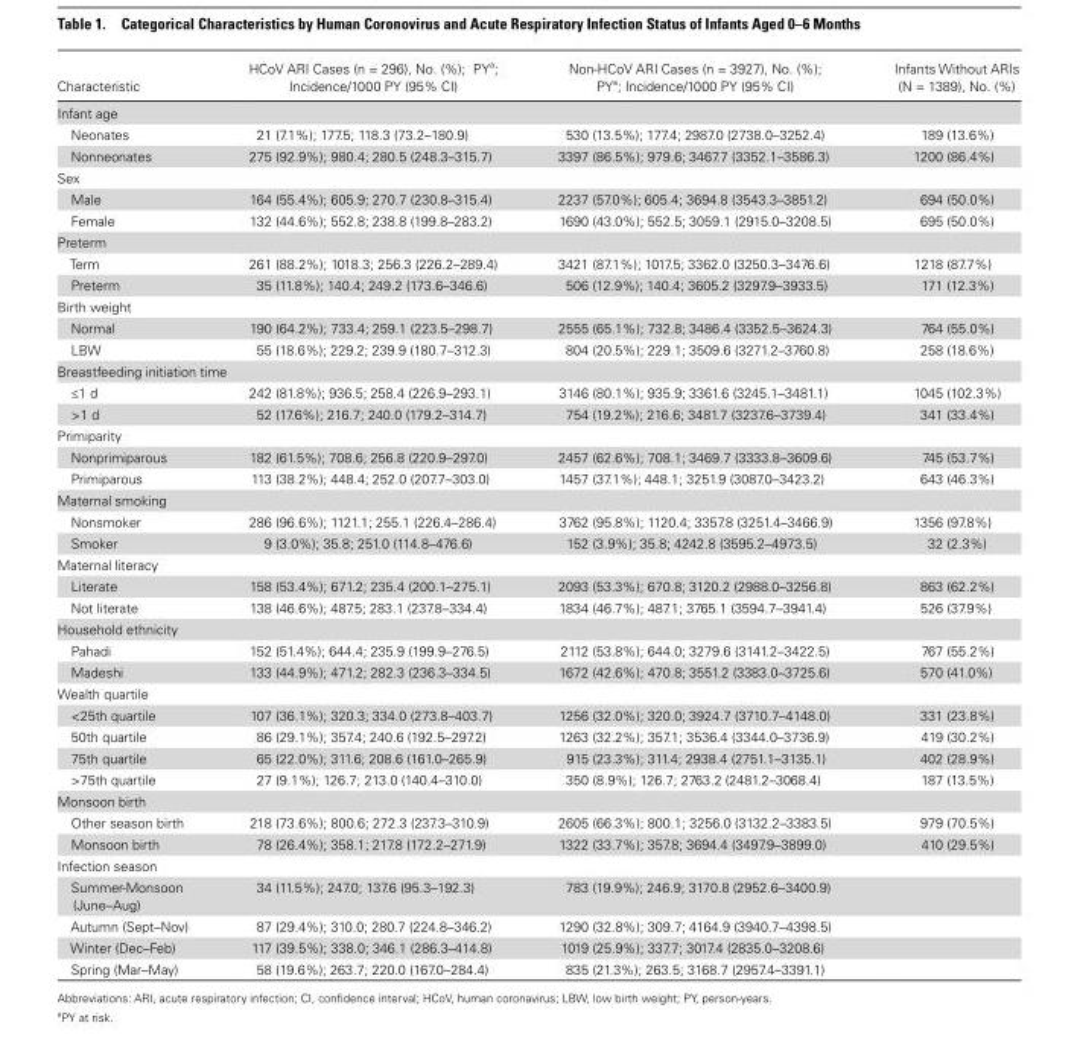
<table><thead><tr><td>Characteristic</td><td>HCoV ARI Cases (n = 296), No. (%); PY<sup>a</sup>; Incidence/1000 PY (95% CI)</td><td>Non-HCoV ARI Cases (n = 3927), No. (%); PY<sup>a</sup>; Incidence/1000 PY (95% CI)</td><td>Infants Without ARIs (N = 1389), No. (%)</td></tr></thead><tbody><tr><td colspan="4">Infant age</td></tr><tr><td>Neonates</td><td>21 (7.1%); 177.5; 118.3 (73.2–180.9)</td><td>530 (13.5%); 177.4; 2987.0 (2738.0–3252.4)</td><td>189 (13.6%)</td></tr><tr><td>Nonneonates</td><td>275 (92.9%); 980.4; 280.5 (248.3–315.7)</td><td>3397 (86.5%); 979.6; 3467.7 (3352.1–3586.3)</td><td>1200 (86.4%)</td></tr><tr><td colspan="4">Sex</td></tr><tr><td>Male</td><td>164 (55.4%); 605.9; 270.7 (230.8–315.4)</td><td>2237 (57.0%); 605.4; 3694.8 (3543.3–3851.2)</td><td>694 (50.0%)</td></tr><tr><td>Female</td><td>132 (44.6%); 552.8; 238.8 (199.8–283.2)</td><td>1690 (43.0%); 552.5; 3059.1 (2915.0–3208.5)</td><td>695 (50.0%)</td></tr><tr><td colspan="4">Preterm</td></tr><tr><td>Term</td><td>261 (88.2%); 1018.3; 256.3 (226.2–289.4)</td><td>3421 (87.1%); 1017.5; 3362.0 (3250.3–3476.6)</td><td>1218 (87.7%)</td></tr><tr><td>Preterm</td><td>35 (11.8%); 140.4; 249.2 (173.6–346.6)</td><td>506 (12.9%); 140.4; 3605.2 (3297.9–3933.5)</td><td>171 (12.3%)</td></tr><tr><td colspan="4">Birth weight</td></tr><tr><td>Normal</td><td>190 (64.2%); 733.4; 259.1 (223.5–298.7)</td><td>2555 (65.1%); 732.8; 3486.4 (3352.5–3624.3)</td><td>764 (55.0%)</td></tr><tr><td>LBW</td><td>55 (18.6%); 229.2; 239.9 (180.7–312.3)</td><td>804 (20.5%); 229.1; 3509.6 (3271.2–3760.8)</td><td>258 (18.6%)</td></tr><tr><td colspan="4">Breastfeeding initiation time</td></tr><tr><td>≤1 d</td><td>242 (81.8%); 936.5; 258.4 (226.9–293.1)</td><td>3146 (80.1%); 935.9; 3361.6 (3245.1–3481.1)</td><td>1045 (102.3%)</td></tr><tr><td>&gt;1 d</td><td>52 (17.6%); 216.7; 240.0 (179.2–314.7)</td><td>754 (19.2%); 216.6; 3481.7 (3237.6–3739.4)</td><td>341 (33.4%)</td></tr><tr><td colspan="4">Primiparity</td></tr><tr><td>Nonprimiparous</td><td>182 (61.5%); 708.6; 256.8 (220.9–297.0)</td><td>2457 (62.6%); 708.1; 3469.7 (3333.8–3609.6)</td><td>745 (53.7%)</td></tr><tr><td>Primiparous</td><td>113 (38.2%); 448.4; 252.0 (207.7–303.0)</td><td>1457 (37.1%); 448.1; 3251.9 (3087.0–3423.2)</td><td>643 (46.3%)</td></tr><tr><td colspan="4">Maternal smoking</td></tr><tr><td>Nonsmoker</td><td>286 (96.6%); 1121.1; 255.1 (226.4–286.4)</td><td>3762 (95.8%); 1120.4; 3357.8 (3251.4–3466.9)</td><td>1356 (97.8%)</td></tr><tr><td>Smoker</td><td>9 (3.0%); 35.8; 251.0 (114.8–476.6)</td><td>152 (3.9%); 35.8; 4242.8 (3595.2–4973.5)</td><td>32 (2.3%)</td></tr><tr><td colspan="4">Maternal literacy</td></tr><tr><td>Literate</td><td>158 (53.4%); 671.2; 235.4 (200.1–275.1)</td><td>2093 (53.3%); 670.8; 3120.2 (2988.0–3256.8)</td><td>863 (62.2%)</td></tr><tr><td>Not literate</td><td>138 (46.6%); 487.5; 283.1 (237.8–334.4)</td><td>1834 (46.7%); 487.1; 3765.1 (3594.7–3941.4)</td><td>526 (37.9%)</td></tr><tr><td colspan="4">Household ethnicity</td></tr><tr><td>Pahadi</td><td>152 (51.4%); 644.4; 235.9 (199.9–276.5)</td><td>2112 (53.8%); 644.0; 3279.6 (3141.2–3422.5)</td><td>767 (55.2%)</td></tr><tr><td>Madeshi</td><td>133 (44.9%); 471.2; 282.3 (236.3–334.5)</td><td>1672 (42.6%); 470.8; 3551.2 (3383.0–3725.6)</td><td>570 (41.0%)</td></tr><tr><td colspan="4">Wealth quartile</td></tr><tr><td>&lt;25th quartile</td><td>107 (36.1%); 320.3; 334.0 (273.8–403.7)</td><td>1256 (32.0%); 320.0; 3924.7 (3710.7–4148.0)</td><td>331 (23.8%)</td></tr><tr><td>50th quartile</td><td>86 (29.1%); 357.4; 240.6 (192.5–297.2)</td><td>1263 (32.2%); 357.1; 3536.4 (3344.0–3736.9)</td><td>419 (30.2%)</td></tr><tr><td>75th quartile</td><td>65 (22.0%); 311.6; 208.6 (161.0–265.9)</td><td>915 (23.3%); 311.4; 2938.4 (2751.1–3135.1)</td><td>402 (28.9%)</td></tr><tr><td>&gt;75th quartile</td><td>27 (9.1%); 126.7; 213.0 (140.4–310.0)</td><td>350 (8.9%); 126.7; 2763.2 (2481.2–3068.4)</td><td>187 (13.5%)</td></tr><tr><td colspan="4">Monsoon birth</td></tr><tr><td>Other season birth</td><td>218 (73.6%); 800.6; 272.3 (237.3–310.9)</td><td>2605 (66.3%); 800.1; 3256.0 (3132.2–3383.5)</td><td>979 (70.5%)</td></tr><tr><td>Monsoon birth</td><td>78 (26.4%); 358.1; 217.8 (172.2–271.9)</td><td>1322 (33.7%); 357.8; 3694.4 (3497.9–3899.0)</td><td>410 (29.5%)</td></tr><tr><td colspan="4">Infection season</td></tr><tr><td>Summer-Monsoon (June–Aug)</td><td>34 (11.5%); 247.0; 137.6 (95.3–192.3)</td><td>783 (19.9%); 246.9; 3170.8 (2952.6–3400.9)</td><td></td></tr><tr><td>Autumn (Sept–Nov)</td><td>87 (29.4%); 310.0; 280.7 (224.8–346.2)</td><td>1290 (32.8%); 309.7; 4164.9 (3940.7–4398.5)</td><td></td></tr><tr><td>Winter (Dec–Feb)</td><td>117 (39.5%); 338.0; 346.1 (286.3–414.8)</td><td>1019 (25.9%); 337.7; 3017.4 (2835.0–3208.6)</td><td></td></tr><tr><td>Spring (Mar–May)</td><td>58 (19.6%); 263.7; 220.0 (167.0–284.4)</td><td>835 (21.3%); 263.5; 3168.7 (2957.4–3391.1)</td><td></td></tr></tbody></table>